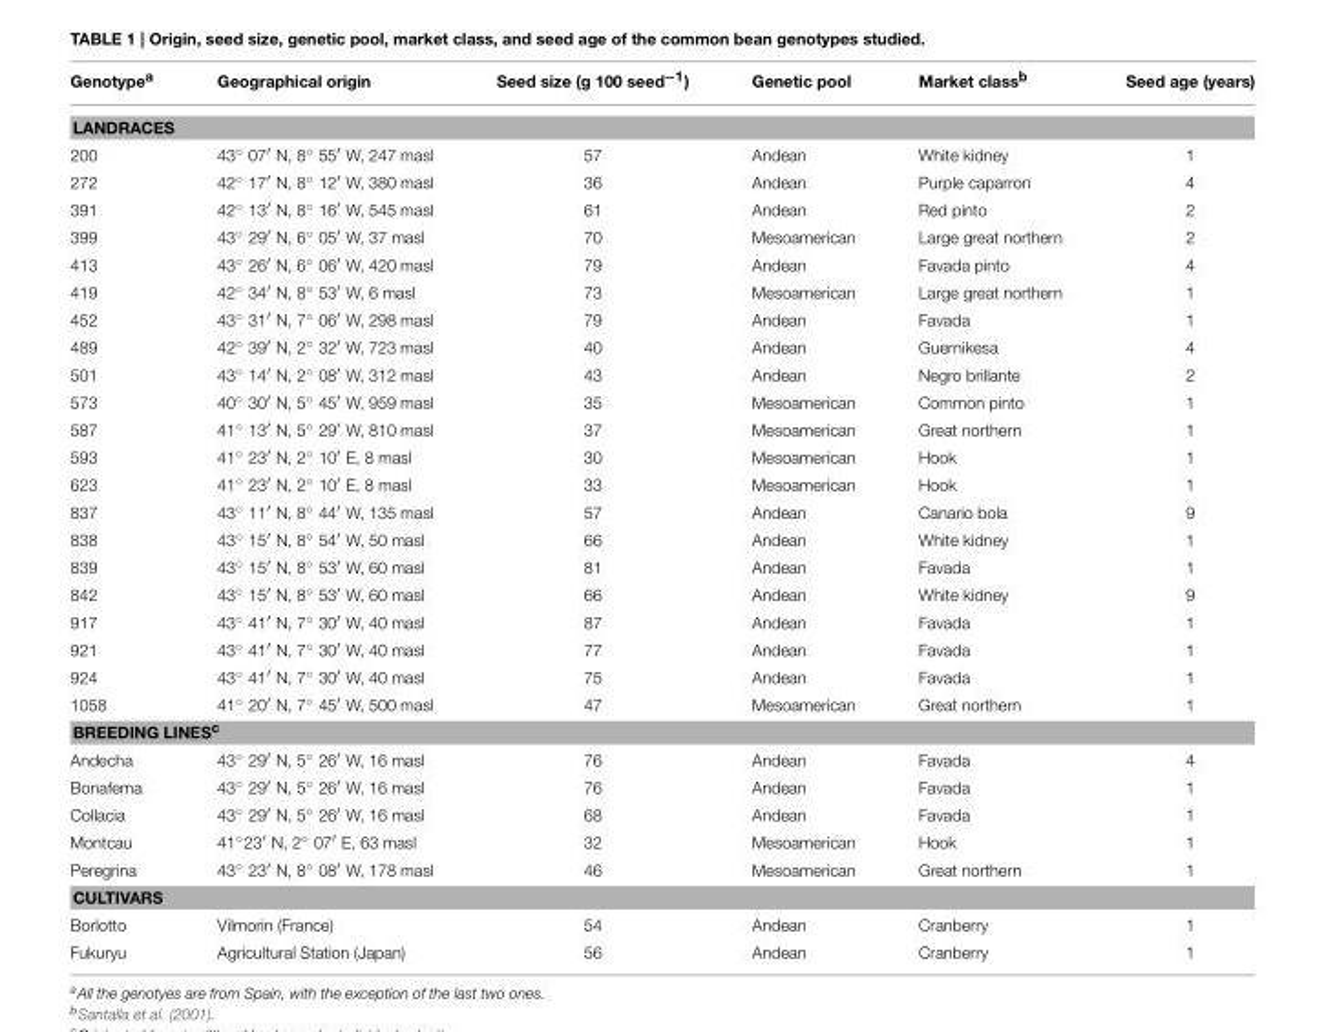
<table><thead><tr><td>Genotype<sup>a</sup></td><td>Geographical origin</td><td>Seed size (g 100 seed<sup>−1</sup>)</td><td>Genetic pool</td><td>Market class<sup>b</sup></td><td>Seed age (years)</td></tr></thead><tbody><tr><td colspan="6">LANDRACES</td></tr><tr><td>200</td><td>43◦ 07′ N, 8◦ 55′ W, 247 masl</td><td>57</td><td>Andean</td><td>White kidney</td><td>1</td></tr><tr><td>272</td><td>42◦ 17′ N, 8◦ 12′ W, 380 masl</td><td>36</td><td>Andean</td><td>Purple caparron</td><td>4</td></tr><tr><td>391</td><td>42◦ 13′ N, 8◦ 16′ W, 545 masl</td><td>61</td><td>Andean</td><td>Red pinto</td><td>2</td></tr><tr><td>399</td><td>43◦ 29′ N, 6◦ 05′ W, 37 masl</td><td>70</td><td>Mesoamerican</td><td>Large great northern</td><td>2</td></tr><tr><td>413</td><td>43◦ 26′ N, 6◦ 06′ W, 420 masl</td><td>79</td><td>Andean</td><td>Favada pinto</td><td>4</td></tr><tr><td>419</td><td>42◦ 34′ N, 8◦ 53′ W, 6 masl</td><td>73</td><td>Mesoamerican</td><td>Large great northern</td><td>1</td></tr><tr><td>452</td><td>43◦ 31′ N, 7◦ 06′ W, 298 masl</td><td>79</td><td>Andean</td><td>Favada</td><td>1</td></tr><tr><td>489</td><td>42◦ 39′ N, 2◦ 32′ W, 723 masl</td><td>40</td><td>Andean</td><td>Guernikesa</td><td>4</td></tr><tr><td>501</td><td>43◦ 14′ N, 2◦ 08′ W, 312 masl</td><td>43</td><td>Andean</td><td>Negro brillante</td><td>2</td></tr><tr><td>573</td><td>40◦ 30′ N, 5◦ 45′ W, 959 masl</td><td>35</td><td>Mesoamerican</td><td>Common pinto</td><td>1</td></tr><tr><td>587</td><td>41◦ 13′ N, 5◦ 29′ W, 810 masl</td><td>37</td><td>Mesoamerican</td><td>Great northern</td><td>1</td></tr><tr><td>593</td><td>41◦ 23′ N, 2◦ 10′ E, 8 masl</td><td>30</td><td>Mesoamerican</td><td>Hook</td><td>1</td></tr><tr><td>623</td><td>41◦ 23′ N, 2◦ 10′ E, 8 masl</td><td>33</td><td>Mesoamerican</td><td>Hook</td><td>1</td></tr><tr><td>837</td><td>43◦ 11′ N, 8◦ 44′ W, 135 masl</td><td>57</td><td>Andean</td><td>Canario bola</td><td>9</td></tr><tr><td>838</td><td>43◦ 15′ N, 8◦ 54′ W, 50 masl</td><td>66</td><td>Andean</td><td>White kidney</td><td>1</td></tr><tr><td>839</td><td>43◦ 15′ N, 8◦ 53′ W, 60 masl</td><td>81</td><td>Andean</td><td>Favada</td><td>1</td></tr><tr><td>842</td><td>43◦ 15′ N, 8◦ 53′ W, 60 masl</td><td>66</td><td>Andean</td><td>White kidney</td><td>9</td></tr><tr><td>917</td><td>43◦ 41′ N, 7◦ 30′ W, 40 masl</td><td>87</td><td>Andean</td><td>Favada</td><td>1</td></tr><tr><td>921</td><td>43◦ 41′ N, 7◦ 30′ W, 40 masl</td><td>77</td><td>Andean</td><td>Favada</td><td>1</td></tr><tr><td>924</td><td>43◦ 41′ N, 7◦ 30′ W, 40 masl</td><td>75</td><td>Andean</td><td>Favada</td><td>1</td></tr><tr><td>1058</td><td>41◦ 20′ N, 7◦ 45′ W, 500 masl</td><td>47</td><td>Mesoamerican</td><td>Great northern</td><td>1</td></tr><tr><td colspan="6">BREEDING LINES<sup>c</sup></td></tr><tr><td>Andecha</td><td>43◦ 29′ N, 5◦ 26′ W, 16 masl</td><td>76</td><td>Andean</td><td>Favada</td><td>4</td></tr><tr><td>Bonafema</td><td>43◦ 29′ N, 5◦ 26′ W, 16 masl</td><td>76</td><td>Andean</td><td>Favada</td><td>1</td></tr><tr><td>Collacia</td><td>43◦ 29′ N, 5◦ 26′ W, 16 masl</td><td>68</td><td>Andean</td><td>Favada</td><td>1</td></tr><tr><td>Montcau</td><td>41◦23′ N, 2◦ 07′ E, 63 masl</td><td>32</td><td>Mesoamerican</td><td>Hook</td><td>1</td></tr><tr><td>Peregrina</td><td>43◦ 23′ N, 8◦ 08′ W, 178 masl</td><td>46</td><td>Mesoamerican</td><td>Great northern</td><td>1</td></tr><tr><td colspan="6">CULTIVARS</td></tr><tr><td>Borlotto</td><td>Vilmorin (France)</td><td>54</td><td>Andean</td><td>Cranberry</td><td>1</td></tr><tr><td>Fukuryu</td><td>Agricultural Station (Japan)</td><td>56</td><td>Andean</td><td>Cranberry</td><td>1</td></tr></tbody></table>